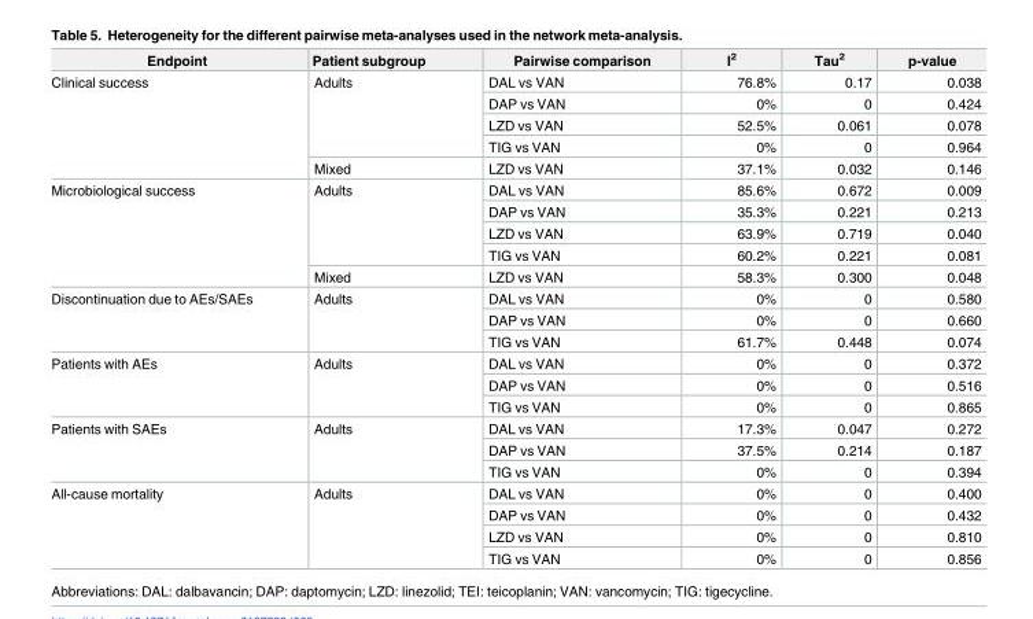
<table><thead><tr><td>Endpoint</td><td>Patient subgroup</td><td>Pairwise comparison</td><td>I<sup>2</sup></td><td>Tau<sup>2</sup></td><td>p-value</td></tr></thead><tbody><tr><td rowspan="5">Clinical success</td><td rowspan="4">Adults</td><td>DAL vs VAN</td><td>76.8%</td><td>0.17</td><td>0.038</td></tr><tr><td>DAP vs VAN</td><td>0%</td><td>0</td><td>0.424</td></tr><tr><td>LZD vs VAN</td><td>52.5%</td><td>0.061</td><td>0.078</td></tr><tr><td>TIG vs VAN</td><td>0%</td><td>0</td><td>0.964</td></tr><tr><td>Mixed</td><td>LZD vs VAN</td><td>37.1%</td><td>0.032</td><td>0.146</td></tr><tr><td rowspan="5">Microbiological success</td><td rowspan="4">Adults</td><td>DAL vs VAN</td><td>85.6%</td><td>0.672</td><td>0.009</td></tr><tr><td>DAP vs VAN</td><td>35.3%</td><td>0.221</td><td>0.213</td></tr><tr><td>LZD vs VAN</td><td>63.9%</td><td>0.719</td><td>0.040</td></tr><tr><td>TIG vs VAN</td><td>60.2%</td><td>0.221</td><td>0.081</td></tr><tr><td>Mixed</td><td>LZD vs VAN</td><td>58.3%</td><td>0.300</td><td>0.048</td></tr><tr><td rowspan="3">Discontinuation due to AEs/SAEs</td><td rowspan="3">Adults</td><td>DAL vs VAN</td><td>0%</td><td>0</td><td>0.580</td></tr><tr><td>DAP vs VAN</td><td>0%</td><td>0</td><td>0.660</td></tr><tr><td>TIG vs VAN</td><td>61.7%</td><td>0.448</td><td>0.074</td></tr><tr><td rowspan="3">Patients with AEs</td><td rowspan="3">Adults</td><td>DAL vs VAN</td><td>0%</td><td>0</td><td>0.372</td></tr><tr><td>DAP vs VAN</td><td>0%</td><td>0</td><td>0.516</td></tr><tr><td>TIG vs VAN</td><td>0%</td><td>0</td><td>0.865</td></tr><tr><td rowspan="3">Patients with SAEs</td><td rowspan="3">Adults</td><td>DAL vs VAN</td><td>17.3%</td><td>0.047</td><td>0.272</td></tr><tr><td>DAP vs VAN</td><td>37.5%</td><td>0.214</td><td>0.187</td></tr><tr><td>TIG vs VAN</td><td>0%</td><td>0</td><td>0.394</td></tr><tr><td rowspan="4">All-cause mortality</td><td rowspan="4">Adults</td><td>DAL vs VAN</td><td>0%</td><td>0</td><td>0.400</td></tr><tr><td>DAP vs VAN</td><td>0%</td><td>0</td><td>0.432</td></tr><tr><td>LZD vs VAN</td><td>0%</td><td>0</td><td>0.810</td></tr><tr><td>TIG vs VAN</td><td>0%</td><td>0</td><td>0.856</td></tr></tbody></table>